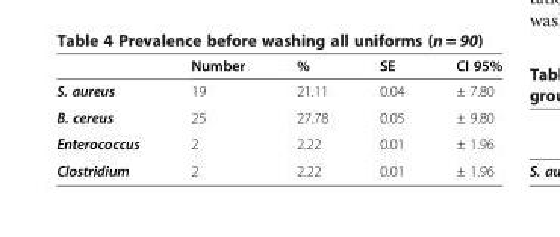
<table><thead><tr><td></td><td>Number</td><td>%</td><td>SE</td><td>CI 95%</td></tr></thead><tbody><tr><td>S. aureus</td><td>19</td><td>21.11</td><td>0.04</td><td>± 7.80</td></tr><tr><td>B. cereus</td><td>25</td><td>27.78</td><td>0.05</td><td>± 9.80</td></tr><tr><td>Enterococcus</td><td>2</td><td>2.22</td><td>0.01</td><td>± 1.96</td></tr><tr><td>Clostridium</td><td>2</td><td>2.22</td><td>0.01</td><td>± 1.96</td></tr></tbody></table>